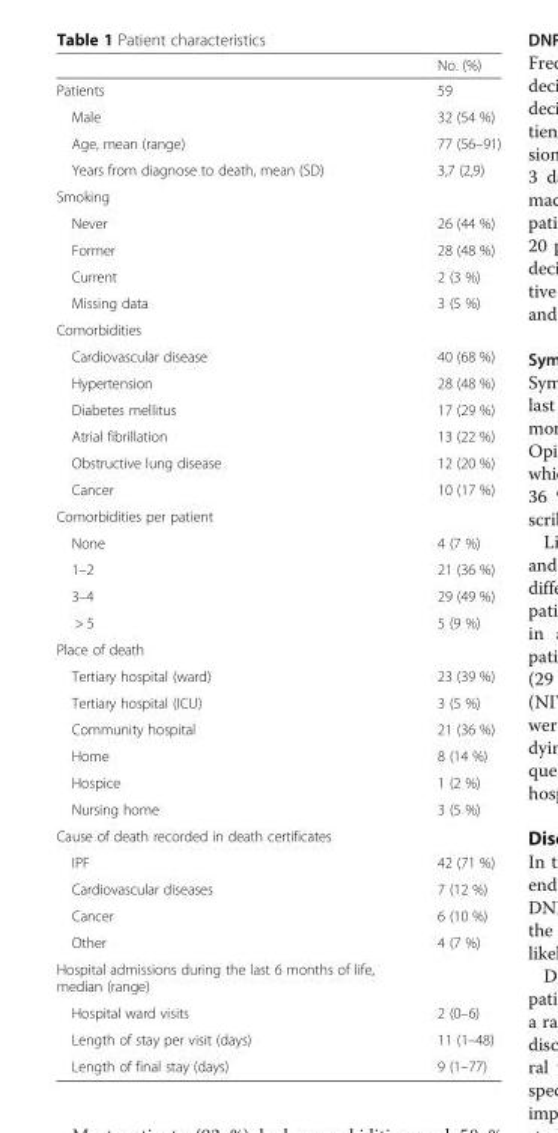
<table><thead><tr><td></td><td>No. (%)</td></tr></thead><tbody><tr><td>Patients</td><td>59</td></tr><tr><td>Male</td><td>32 (54 %)</td></tr><tr><td>Age, mean (range)</td><td>77 (56–91)</td></tr><tr><td>Years from diagnose to death, mean (SD)</td><td>3,7 (2,9)</td></tr><tr><td colspan="2">Smoking</td></tr><tr><td>Never</td><td>26 (44 %)</td></tr><tr><td>Former</td><td>28 (48 %)</td></tr><tr><td>Current</td><td>2 (3 %)</td></tr><tr><td>Missing data</td><td>3 (5 %)</td></tr><tr><td colspan="2">Comorbidities</td></tr><tr><td>Cardiovascular disease</td><td>40 (68 %)</td></tr><tr><td>Hypertension</td><td>28 (48 %)</td></tr><tr><td>Diabetes mellitus</td><td>17 (29 %)</td></tr><tr><td>Atrial fibrillation</td><td>13 (22 %)</td></tr><tr><td>Obstructive lung disease</td><td>12 (20 %)</td></tr><tr><td>Cancer</td><td>10 (17 %)</td></tr><tr><td colspan="2">Comorbidities per patient</td></tr><tr><td>None</td><td>4 (7 %)</td></tr><tr><td>1–2</td><td>21 (36 %)</td></tr><tr><td>3–4</td><td>29 (49 %)</td></tr><tr><td>&gt; 5</td><td>5 (9 %)</td></tr><tr><td colspan="2">Place of death</td></tr><tr><td>Tertiary hospital (ward)</td><td>23 (39 %)</td></tr><tr><td>Tertiary hospital (ICU)</td><td>3 (5 %)</td></tr><tr><td>Community hospital</td><td>21 (36 %)</td></tr><tr><td>Home</td><td>8 (14 %)</td></tr><tr><td>Hospice</td><td>1 (2 %)</td></tr><tr><td>Nursing home</td><td>3 (5 %)</td></tr><tr><td colspan="2">Cause of death recorded in death certificates</td></tr><tr><td>IPF</td><td>42 (71 %)</td></tr><tr><td>Cardiovascular diseases</td><td>7 (12 %)</td></tr><tr><td>Cancer</td><td>6 (10 %)</td></tr><tr><td>Other</td><td>4 (7 %)</td></tr><tr><td colspan="2">Hospital admissions during the last 6 months of life, median (range)</td></tr><tr><td>Hospital ward visits</td><td>2 (0–6)</td></tr><tr><td>Length of stay per visit (days)</td><td>11 (1–48)</td></tr><tr><td>Length of final stay (days)</td><td>9 (1–77)</td></tr></tbody></table>